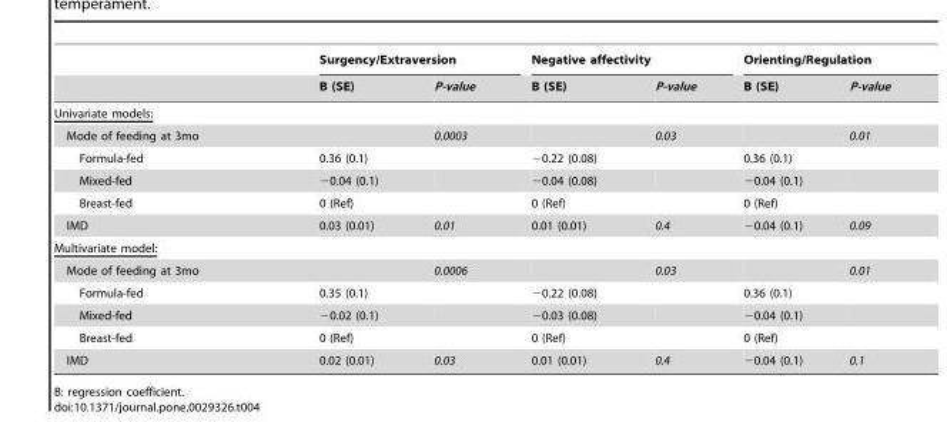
<table><thead><tr><td rowspan="2"></td><td colspan="2">Surgency/Extraversion</td><td colspan="2">Negative affectivity</td><td colspan="2">Orienting/Regulation</td></tr><tr><td>B (SE)</td><td>P-value</td><td>B (SE)</td><td>P-value</td><td>B (SE)</td><td>P-value</td></tr></thead><tbody><tr><td colspan="7">Univariate models:</td></tr><tr><td>Mode of feeding at 3mo</td><td></td><td>0.0003</td><td></td><td>0.03</td><td></td><td>0.01</td></tr><tr><td>Formula-fed</td><td>0.36 (0.1)</td><td></td><td>−0.22 (0.08)</td><td></td><td>0.36 (0.1)</td><td></td></tr><tr><td>Mixed-fed</td><td>−0.04 (0.1)</td><td></td><td>−0.04 (0.08)</td><td></td><td>−0.04 (0.1)</td><td></td></tr><tr><td>Breast-fed</td><td>0 (Ref)</td><td></td><td>0 (Ref)</td><td></td><td>0 (Ref)</td><td></td></tr><tr><td>IMD</td><td>0.03 (0.01)</td><td>0.01</td><td>0.01 (0.01)</td><td>0.4</td><td>−0.04 (0.1)</td><td>0.09</td></tr><tr><td colspan="7">Multivariate model:</td></tr><tr><td>Mode of feeding at 3mo</td><td></td><td>0.0006</td><td></td><td>0.03</td><td></td><td>0.01</td></tr><tr><td>Formula-fed</td><td>0.35 (0.1)</td><td></td><td>−0.22 (0.08)</td><td></td><td>0.36 (0.1)</td><td></td></tr><tr><td>Mixed-fed</td><td>−0.02 (0.1)</td><td></td><td>−0.03 (0.08)</td><td></td><td>−0.04 (0.1)</td><td></td></tr><tr><td>Breast-fed</td><td>0 (Ref)</td><td></td><td>0 (Ref)</td><td></td><td>0 (Ref)</td><td></td></tr><tr><td>IMD</td><td>0.02 (0.01)</td><td>0.03</td><td>0.01 (0.01)</td><td>0.4</td><td>−0.04 (0.1)</td><td>0.1</td></tr></tbody></table>